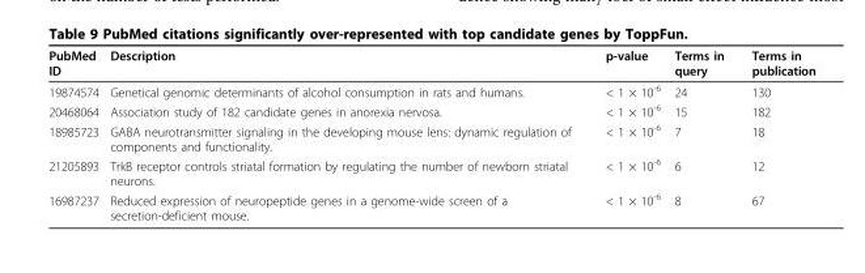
<table><thead><tr><td>PubMed ID</td><td>Description</td><td>p-value</td><td>Terms in query</td><td>Terms in publication</td></tr></thead><tbody><tr><td>19874574</td><td>Genetical genomic determinants of alcohol consumption in rats and humans.</td><td>&lt; 1 × 10<sup>-6</sup></td><td>24</td><td>130</td></tr><tr><td>20468064</td><td>Association study of 182 candidate genes in anorexia nervosa.</td><td>&lt; 1 × 10<sup>-6</sup></td><td>15</td><td>182</td></tr><tr><td>18985723</td><td>GABA neurotransmitter signaling in the developing mouse lens: dynamic regulation of components and functionality.</td><td>&lt; 1 × 10<sup>-6</sup></td><td>7</td><td>18</td></tr><tr><td>21205893</td><td>TrkB receptor controls striatal formation by regulating the number of newborn striatal neurons.</td><td>&lt; 1 × 10<sup>-6</sup></td><td>6</td><td>12</td></tr><tr><td>16987237</td><td>Reduced expression of neuropeptide genes in a genome-wide screen of a secretion-deficient mouse.</td><td>&lt; 1 × 10<sup>-6</sup></td><td>8</td><td>67</td></tr></tbody></table>